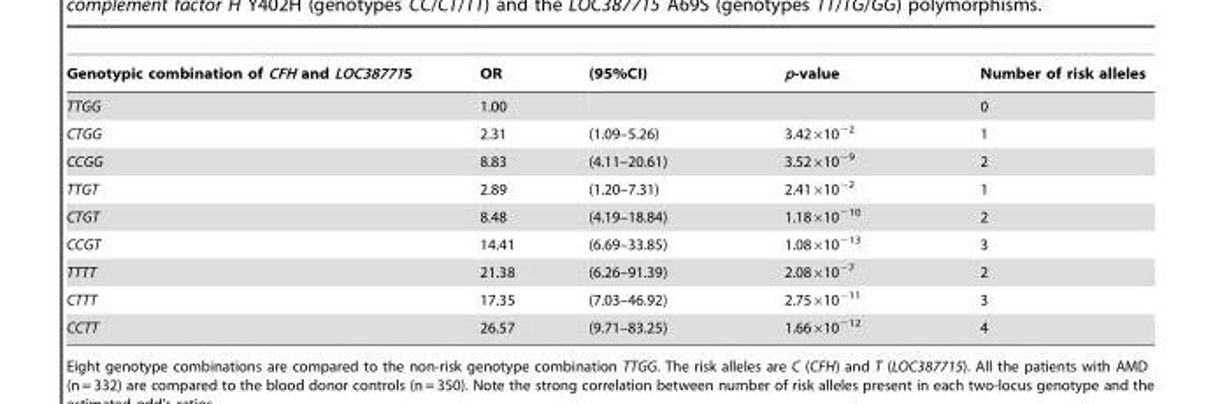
<table><thead><tr><td>Genotypic combination of CFH and LOC387715</td><td>OR</td><td>(95%CI)</td><td>p-value</td><td>Number of risk alleles</td></tr></thead><tbody><tr><td>TTGG</td><td>1.00</td><td></td><td></td><td>0</td></tr><tr><td>CTGG</td><td>2.31</td><td>(1.09–5.26)</td><td>3.42×10<sup>−2</sup></td><td>1</td></tr><tr><td>CCGG</td><td>8.83</td><td>(4.11–20.61)</td><td>3.52×10<sup>−9</sup></td><td>2</td></tr><tr><td>TTGT</td><td>2.89</td><td>(1.20–7.31)</td><td>2.41×10<sup>−2</sup></td><td>1</td></tr><tr><td>CTGT</td><td>8.48</td><td>(4.19–18.84)</td><td>1.18×10<sup>−10</sup></td><td>2</td></tr><tr><td>CCGT</td><td>14.41</td><td>(6.69–33.85)</td><td>1.08×10<sup>−13</sup></td><td>3</td></tr><tr><td>TTTT</td><td>21.38</td><td>(6.26–91.39)</td><td>2.08×10<sup>−7</sup></td><td>2</td></tr><tr><td>CTTT</td><td>17.35</td><td>(7.03–46.92)</td><td>2.75×10<sup>−11</sup></td><td>3</td></tr><tr><td>CCTT</td><td>26.57</td><td>(9.71–83.25)</td><td>1.66×10<sup>−12</sup></td><td>4</td></tr></tbody></table>